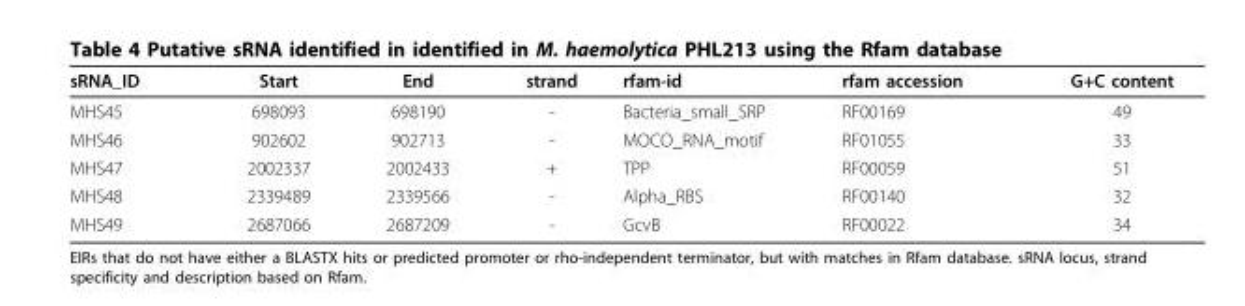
<table><thead><tr><td>sRNA_ID</td><td>Start</td><td>End</td><td>strand</td><td>rfam-id</td><td>rfam accession</td><td>G+C content</td></tr></thead><tbody><tr><td>MHS45</td><td>698093</td><td>698190</td><td>-</td><td>Bacteria_small_SRP</td><td>RF00169</td><td>49</td></tr><tr><td>MHS46</td><td>902602</td><td>902713</td><td>-</td><td>MOCO_RNA_motif</td><td>RF01055</td><td>33</td></tr><tr><td>MHS47</td><td>2002337</td><td>2002433</td><td>+</td><td>TPP</td><td>RF00059</td><td>51</td></tr><tr><td>MHS48</td><td>2339489</td><td>2339566</td><td>-</td><td>Alpha_RBS</td><td>RF00140</td><td>32</td></tr><tr><td>MHS49</td><td>2687066</td><td>2687209</td><td>-</td><td>GcvB</td><td>RF00022</td><td>34</td></tr></tbody></table>